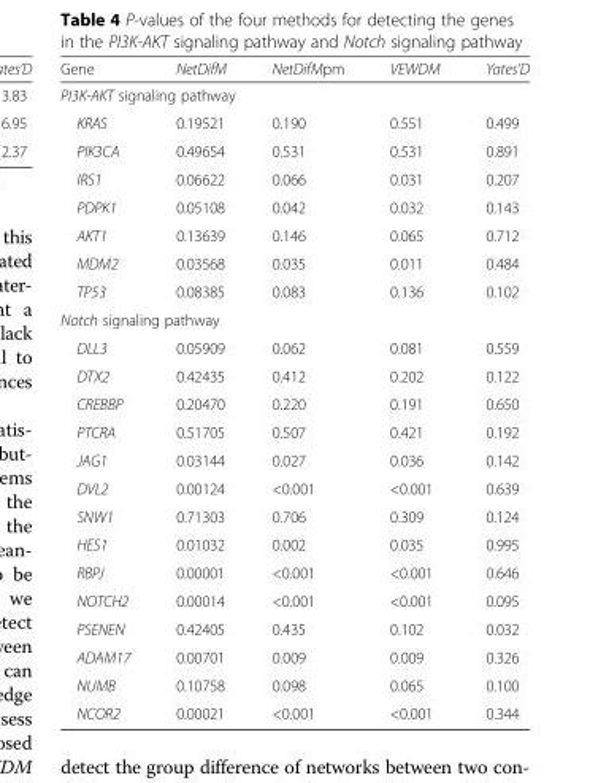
<table><thead><tr><td>Gene</td><td>NetDifM</td><td>NetDifMpm</td><td>VEWDM</td><td>Yates’D</td></tr></thead><tbody><tr><td colspan="5">PI3K-AKT signaling pathway</td></tr><tr><td>KRAS</td><td>0.19521</td><td>0.190</td><td>0.551</td><td>0.499</td></tr><tr><td>PIK3CA</td><td>0.49654</td><td>0.531</td><td>0.531</td><td>0.891</td></tr><tr><td>IRS1</td><td>0.06622</td><td>0.066</td><td>0.031</td><td>0.207</td></tr><tr><td>PDPK1</td><td>0.05108</td><td>0.042</td><td>0.032</td><td>0.143</td></tr><tr><td>AKT1</td><td>0.13639</td><td>0.146</td><td>0.065</td><td>0.712</td></tr><tr><td>MDM2</td><td>0.03568</td><td>0.035</td><td>0.011</td><td>0.484</td></tr><tr><td>TP53</td><td>0.08385</td><td>0.083</td><td>0.136</td><td>0.102</td></tr><tr><td colspan="5">Notch signaling pathway</td></tr><tr><td>DLL3</td><td>0.05909</td><td>0.062</td><td>0.081</td><td>0.559</td></tr><tr><td>DTX2</td><td>0.42435</td><td>0.412</td><td>0.202</td><td>0.122</td></tr><tr><td>CREBBP</td><td>0.20470</td><td>0.220</td><td>0.191</td><td>0.650</td></tr><tr><td>PTCRA</td><td>0.51705</td><td>0.507</td><td>0.421</td><td>0.192</td></tr><tr><td>JAG1</td><td>0.03144</td><td>0.027</td><td>0.036</td><td>0.142</td></tr><tr><td>DVL2</td><td>0.00124</td><td>&lt;0.001</td><td>&lt;0.001</td><td>0.639</td></tr><tr><td>SNW1</td><td>0.71303</td><td>0.706</td><td>0.309</td><td>0.124</td></tr><tr><td>HES1</td><td>0.01032</td><td>0.002</td><td>0.035</td><td>0.995</td></tr><tr><td>RBPJ</td><td>0.00001</td><td>&lt;0.001</td><td>&lt;0.001</td><td>0.646</td></tr><tr><td>NOTCH2</td><td>0.00014</td><td>&lt;0.001</td><td>&lt;0.001</td><td>0.095</td></tr><tr><td>PSENEN</td><td>0.42405</td><td>0.435</td><td>0.102</td><td>0.032</td></tr><tr><td>ADAM17</td><td>0.00701</td><td>0.009</td><td>0.009</td><td>0.326</td></tr><tr><td>NUMB</td><td>0.10758</td><td>0.098</td><td>0.065</td><td>0.100</td></tr><tr><td>NCOR2</td><td>0.00021</td><td>&lt;0.001</td><td>&lt;0.001</td><td>0.344</td></tr></tbody></table>